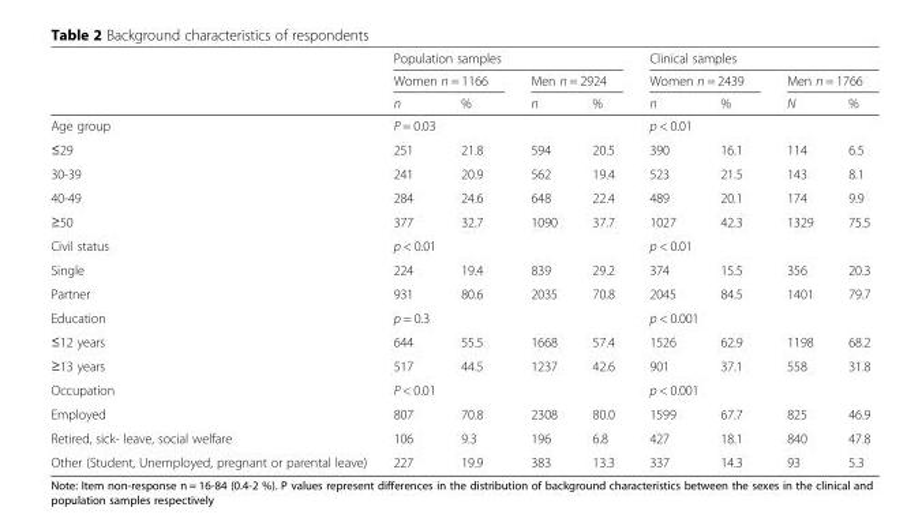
<table><thead><tr><td rowspan="3"></td><td colspan="4">Population samples</td><td colspan="4">Clinical samples</td></tr><tr><td colspan="2">Women n = 1166</td><td colspan="2">Men n = 2924</td><td colspan="2">Women n = 2439</td><td colspan="2">Men n = 1766</td></tr><tr><td>n</td><td>%</td><td>n</td><td>%</td><td>n</td><td>%</td><td>N</td><td>%</td></tr></thead><tbody><tr><td>Age group</td><td colspan="4">P = 0.03</td><td colspan="4">p &lt; 0.01</td></tr><tr><td>≤29</td><td>251</td><td>21.8</td><td>594</td><td>20.5</td><td>390</td><td>16.1</td><td>114</td><td>6.5</td></tr><tr><td>30-39</td><td>241</td><td>20.9</td><td>562</td><td>19.4</td><td>523</td><td>21.5</td><td>143</td><td>8.1</td></tr><tr><td>40-49</td><td>284</td><td>24.6</td><td>648</td><td>22.4</td><td>489</td><td>20.1</td><td>174</td><td>9.9</td></tr><tr><td>≥50</td><td>377</td><td>32.7</td><td>1090</td><td>37.7</td><td>1027</td><td>42.3</td><td>1329</td><td>75.5</td></tr><tr><td>Civil status</td><td colspan="4">p &lt; 0.01</td><td colspan="4">p &lt; 0.01</td></tr><tr><td>Single</td><td>224</td><td>19.4</td><td>839</td><td>29.2</td><td>374</td><td>15.5</td><td>356</td><td>20.3</td></tr><tr><td>Partner</td><td>931</td><td>80.6</td><td>2035</td><td>70.8</td><td>2045</td><td>84.5</td><td>1401</td><td>79.7</td></tr><tr><td>Education</td><td colspan="4">p = 0.3</td><td colspan="4">p &lt; 0.001</td></tr><tr><td>≤12 years</td><td>644</td><td>55.5</td><td>1668</td><td>57.4</td><td>1526</td><td>62.9</td><td>1198</td><td>68.2</td></tr><tr><td>≥13 years</td><td>517</td><td>44.5</td><td>1237</td><td>42.6</td><td>901</td><td>37.1</td><td>558</td><td>31.8</td></tr><tr><td>Occupation</td><td colspan="4">P &lt; 0.01</td><td colspan="4">p &lt; 0.001</td></tr><tr><td>Employed</td><td>807</td><td>70.8</td><td>2308</td><td>80.0</td><td>1599</td><td>67.7</td><td>825</td><td>46.9</td></tr><tr><td>Retired, sick- leave, social welfare</td><td>106</td><td>9.3</td><td>196</td><td>6.8</td><td>427</td><td>18.1</td><td>840</td><td>47.8</td></tr><tr><td>Other (Student, Unemployed, pregnant or parental leave)</td><td>227</td><td>19.9</td><td>383</td><td>13.3</td><td>337</td><td>14.3</td><td>93</td><td>5.3</td></tr></tbody></table>